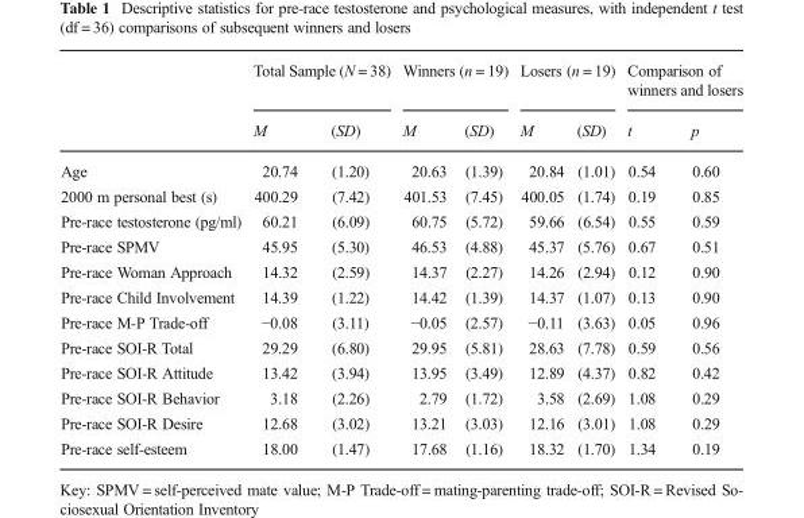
<table><thead><tr><td rowspan="2"></td><td colspan="2">Total Sample (N = 38)</td><td colspan="2">Winners (n = 19)</td><td colspan="2">Losers (n = 19)</td><td colspan="2">Comparison of winners and losers</td></tr><tr><td>M</td><td>(SD)</td><td>M</td><td>(SD)</td><td>M</td><td>(SD)</td><td>t</td><td>p</td></tr></thead><tbody><tr><td>Age</td><td>20.74</td><td>(1.20)</td><td>20.63</td><td>(1.39)</td><td>20.84</td><td>(1.01)</td><td>0.54</td><td>0.60</td></tr><tr><td>2000 m personal best (s)</td><td>400.29</td><td>(7.42)</td><td>401.53</td><td>(7.45)</td><td>400.05</td><td>(1.74)</td><td>0.19</td><td>0.85</td></tr><tr><td>Pre-race testosterone (pg/ml)</td><td>60.21</td><td>(6.09)</td><td>60.75</td><td>(5.72)</td><td>59.66</td><td>(6.54)</td><td>0.55</td><td>0.59</td></tr><tr><td>Pre-race SPMV</td><td>45.95</td><td>(5.30)</td><td>46.53</td><td>(4.88)</td><td>45.37</td><td>(5.76)</td><td>0.67</td><td>0.51</td></tr><tr><td>Pre-race Woman Approach</td><td>14.32</td><td>(2.59)</td><td>14.37</td><td>(2.27)</td><td>14.26</td><td>(2.94)</td><td>0.12</td><td>0.90</td></tr><tr><td>Pre-race Child Involvement</td><td>14.39</td><td>(1.22)</td><td>14.42</td><td>(1.39)</td><td>14.37</td><td>(1.07)</td><td>0.13</td><td>0.90</td></tr><tr><td>Pre-race M-P Trade-off</td><td>−0.08</td><td>(3.11)</td><td>−0.05</td><td>(2.57)</td><td>−0.11</td><td>(3.63)</td><td>0.05</td><td>0.96</td></tr><tr><td>Pre-race SOI-R Total</td><td>29.29</td><td>(6.80)</td><td>29.95</td><td>(5.81)</td><td>28.63</td><td>(7.78)</td><td>0.59</td><td>0.56</td></tr><tr><td>Pre-race SOI-R Attitude</td><td>13.42</td><td>(3.94)</td><td>13.95</td><td>(3.49)</td><td>12.89</td><td>(4.37)</td><td>0.82</td><td>0.42</td></tr><tr><td>Pre-race SOI-R Behavior</td><td>3.18</td><td>(2.26)</td><td>2.79</td><td>(1.72)</td><td>3.58</td><td>(2.69)</td><td>1.08</td><td>0.29</td></tr><tr><td>Pre-race SOI-R Desire</td><td>12.68</td><td>(3.02)</td><td>13.21</td><td>(3.03)</td><td>12.16</td><td>(3.01)</td><td>1.08</td><td>0.29</td></tr><tr><td>Pre-race self-esteem</td><td>18.00</td><td>(1.47)</td><td>17.68</td><td>(1.16)</td><td>18.32</td><td>(1.70)</td><td>1.34</td><td>0.19</td></tr></tbody></table>